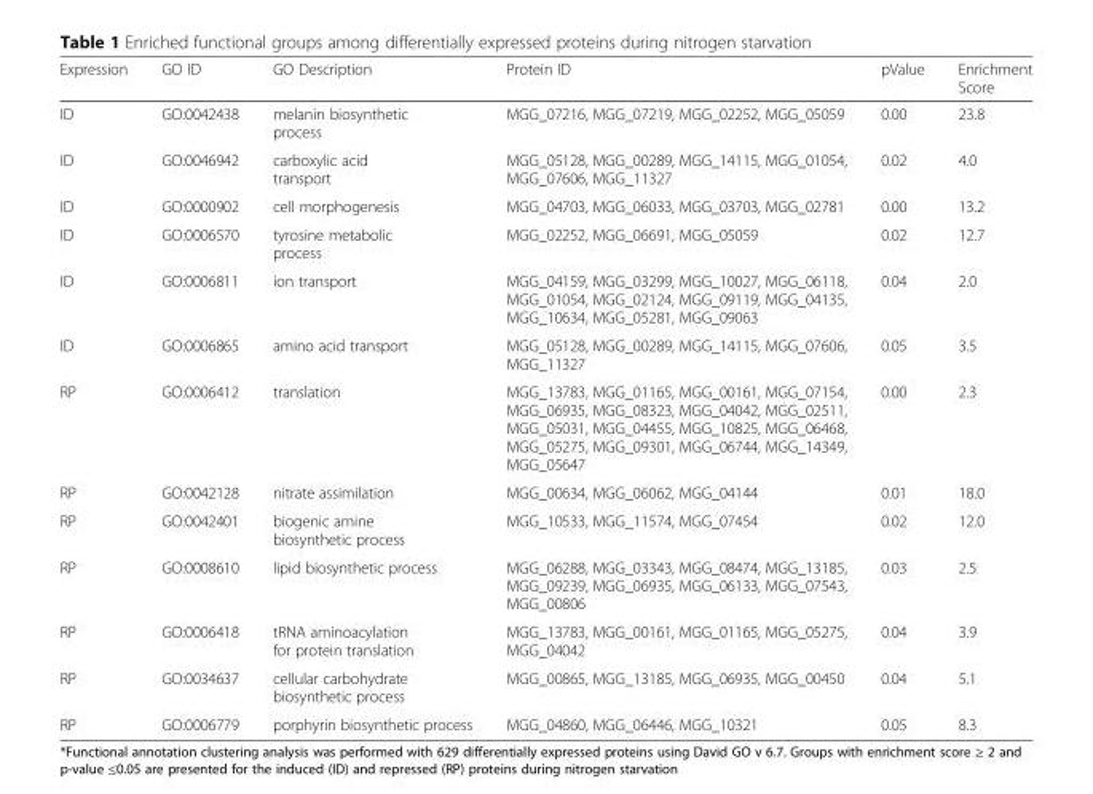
<table><thead><tr><td>Expression</td><td>GO ID</td><td>GO Description</td><td>Protein ID</td><td>pValue</td><td>Enrichment Score</td></tr></thead><tbody><tr><td>ID</td><td>GO:0042438</td><td>melanin biosynthetic process</td><td>MGG_07216, MGG_07219, MGG_02252, MGG_05059</td><td>0.00</td><td>23.8</td></tr><tr><td>ID</td><td>GO:0046942</td><td>carboxylic acid transport</td><td>MGG_05128, MGG_00289, MGG_14115, MGG_01054, MGG_07606, MGG_11327</td><td>0.02</td><td>4.0</td></tr><tr><td>ID</td><td>GO:0000902</td><td>cell morphogenesis</td><td>MGG_04703, MGG_06033, MGG_03703, MGG_02781</td><td>0.00</td><td>13.2</td></tr><tr><td>ID</td><td>GO:0006570</td><td>tyrosine metabolic process</td><td>MGG_02252, MGG_06691, MGG_05059</td><td>0.02</td><td>12.7</td></tr><tr><td>ID</td><td>GO:0006811</td><td>ion transport</td><td>MGG_04159, MGG_03299, MGG_10027, MGG_06118, MGG_01054, MGG_02124, MGG_09119, MGG_04135, MGG_10634, MGG_05281, MGG_09063</td><td>0.04</td><td>2.0</td></tr><tr><td>ID</td><td>GO:0006865</td><td>amino acid transport</td><td>MGG_05128, MGG_00289, MGG_14115, MGG_07606, MGG_11327</td><td>0.05</td><td>3.5</td></tr><tr><td>RP</td><td>GO:0006412</td><td>translation</td><td>MGG_13783, MGG_01165, MGG_00161, MGG_07154, MGG_06935, MGG_08323, MGG_04042, MGG_02511, MGG_05031, MGG_04455, MGG_10825, MGG_06468, MGG_05275, MGG_09301, MGG_06744, MGG_14349, MGG_05647</td><td>0.00</td><td>2.3</td></tr><tr><td>RP</td><td>GO:0042128</td><td>nitrate assimilation</td><td>MGG_00634, MGG_06062, MGG_04144</td><td>0.01</td><td>18.0</td></tr><tr><td>RP</td><td>GO:0042401</td><td>biogenic amine biosynthetic process</td><td>MGG_10533, MGG_11574, MGG_07454</td><td>0.02</td><td>12.0</td></tr><tr><td>RP</td><td>GO:0008610</td><td>lipid biosynthetic process</td><td>MGG_06288, MGG_03343, MGG_08474, MGG_13185, MGG_09239, MGG_06935, MGG_06133, MGG_07543, MGG_00806</td><td>0.03</td><td>2.5</td></tr><tr><td>RP</td><td>GO:0006418</td><td>tRNA aminoacylation for protein translation</td><td>MGG_13783, MGG_00161, MGG_01165, MGG_05275, MGG_04042</td><td>0.04</td><td>3.9</td></tr><tr><td>RP</td><td>GO:0034637</td><td>cellular carbohydrate biosynthetic process</td><td>MGG_00865, MGG_13185, MGG_06935, MGG_00450</td><td>0.04</td><td>5.1</td></tr><tr><td>RP</td><td>GO:0006779</td><td>porphyrin biosynthetic process</td><td>MGG_04860, MGG_06446, MGG_10321</td><td>0.05</td><td>8.3</td></tr></tbody></table>